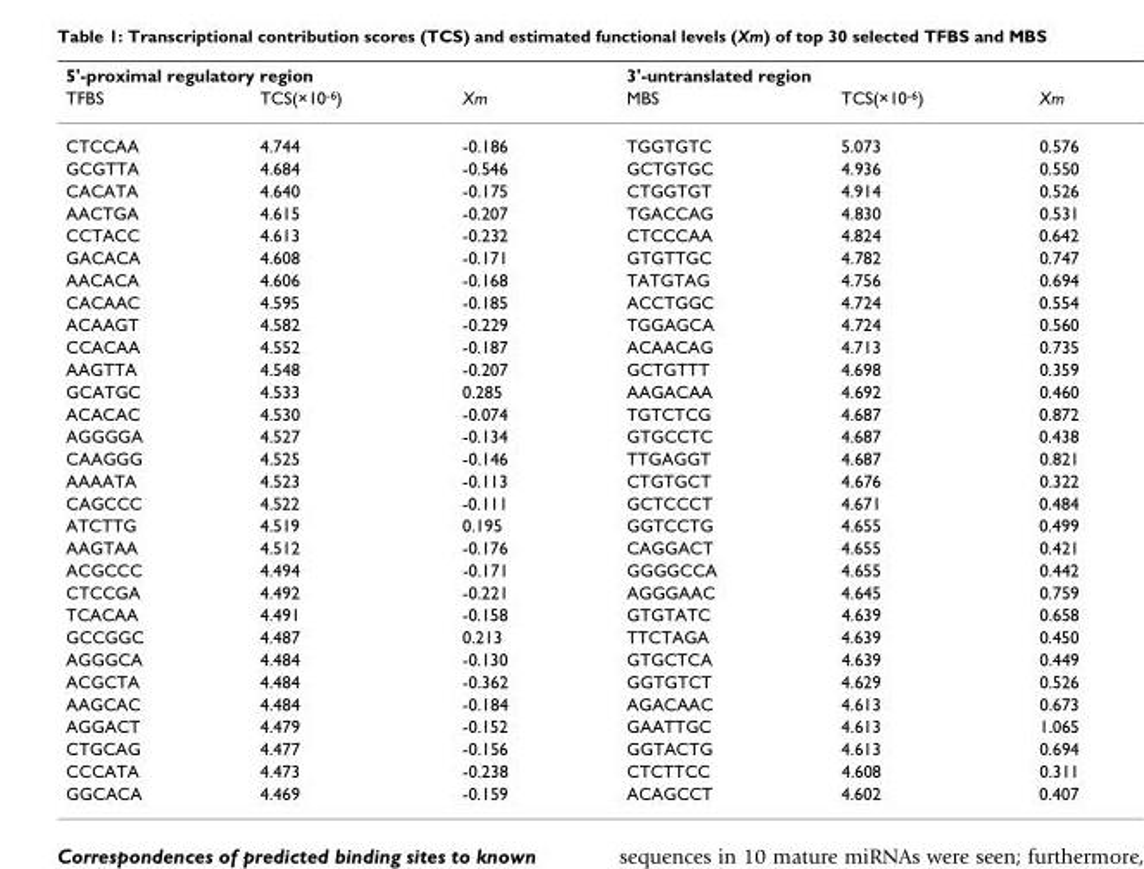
<table><thead><tr><td colspan="3">5&#x27;-proximal regulatory region</td><td colspan="3">3&#x27;-untranslated region</td></tr><tr><td>TFBS</td><td>TCS(×10<sup>-6</sup>)</td><td>Xm</td><td>MBS</td><td>TCS(×10<sup>-6</sup>)</td><td>Xm</td></tr></thead><tbody><tr><td>CTCCAA</td><td>4.744</td><td>-0.186</td><td>TGGTGTC</td><td>5.073</td><td>0.576</td></tr><tr><td>GCGTTA</td><td>4.684</td><td>-0.546</td><td>GCTGTGC</td><td>4.936</td><td>0.550</td></tr><tr><td>CACATA</td><td>4.640</td><td>-0.175</td><td>CTGGTGT</td><td>4.914</td><td>0.526</td></tr><tr><td>AACTGA</td><td>4.615</td><td>-0.207</td><td>TGACCAG</td><td>4.830</td><td>0.531</td></tr><tr><td>CCTACC</td><td>4.613</td><td>-0.232</td><td>CTCCCAA</td><td>4.824</td><td>0.642</td></tr><tr><td>GACACA</td><td>4.608</td><td>-0.171</td><td>GTGTTGC</td><td>4.782</td><td>0.747</td></tr><tr><td>AACACA</td><td>4.606</td><td>-0.168</td><td>TATGTAG</td><td>4.756</td><td>0.694</td></tr><tr><td>CACAAC</td><td>4.595</td><td>-0.185</td><td>ACCTGGC</td><td>4.724</td><td>0.554</td></tr><tr><td>ACAAGT</td><td>4.582</td><td>-0.229</td><td>TGGAGCA</td><td>4.724</td><td>0.560</td></tr><tr><td>CCACAA</td><td>4.552</td><td>-0.187</td><td>ACAACAG</td><td>4.713</td><td>0.735</td></tr><tr><td>AAGTTA</td><td>4.548</td><td>-0.207</td><td>GCTGTTT</td><td>4.698</td><td>0.359</td></tr><tr><td>GCATGC</td><td>4.533</td><td>0.285</td><td>AAGACAA</td><td>4.692</td><td>0.460</td></tr><tr><td>ACACAC</td><td>4.530</td><td>-0.074</td><td>TGTCTCG</td><td>4.687</td><td>0.872</td></tr><tr><td>AGGGGA</td><td>4.527</td><td>-0.134</td><td>GTGCCTC</td><td>4.687</td><td>0.438</td></tr><tr><td>CAAGGG</td><td>4.525</td><td>-0.146</td><td>TTGAGGT</td><td>4.687</td><td>0.821</td></tr><tr><td>AAAATA</td><td>4.523</td><td>-0.113</td><td>CTGTGCT</td><td>4.676</td><td>0.322</td></tr><tr><td>CAGCCC</td><td>4.522</td><td>-0.111</td><td>GCTCCCT</td><td>4.671</td><td>0.484</td></tr><tr><td>ATCTTG</td><td>4.519</td><td>0.195</td><td>GGTCCTG</td><td>4.655</td><td>0.499</td></tr><tr><td>AAGTAA</td><td>4.512</td><td>-0.176</td><td>CAGGACT</td><td>4.655</td><td>0.421</td></tr><tr><td>ACGCCC</td><td>4.494</td><td>-0.171</td><td>GGGGCCA</td><td>4.655</td><td>0.442</td></tr><tr><td>CTCCGA</td><td>4.492</td><td>-0.221</td><td>AGGGAAC</td><td>4.645</td><td>0.759</td></tr><tr><td>TCACAA</td><td>4.491</td><td>-0.158</td><td>GTGTATC</td><td>4.639</td><td>0.658</td></tr><tr><td>GCCGGC</td><td>4.487</td><td>0.213</td><td>TTCTAGA</td><td>4.639</td><td>0.450</td></tr><tr><td>AGGGCA</td><td>4.484</td><td>-0.130</td><td>GTGCTCA</td><td>4.639</td><td>0.449</td></tr><tr><td>ACGCTA</td><td>4.484</td><td>-0.362</td><td>GGTGTCT</td><td>4.629</td><td>0.526</td></tr><tr><td>AAGCAC</td><td>4.484</td><td>-0.184</td><td>AGACAAC</td><td>4.613</td><td>0.673</td></tr><tr><td>AGGACT</td><td>4.479</td><td>-0.152</td><td>GAATTGC</td><td>4.613</td><td>1.065</td></tr><tr><td>CTGCAG</td><td>4.477</td><td>-0.156</td><td>GGTACTG</td><td>4.613</td><td>0.694</td></tr><tr><td>CCCATA</td><td>4.473</td><td>-0.238</td><td>CTCTTCC</td><td>4.608</td><td>0.311</td></tr><tr><td>GGCACA</td><td>4.469</td><td>-0.159</td><td>ACAGCCT</td><td>4.602</td><td>0.407</td></tr></tbody></table>